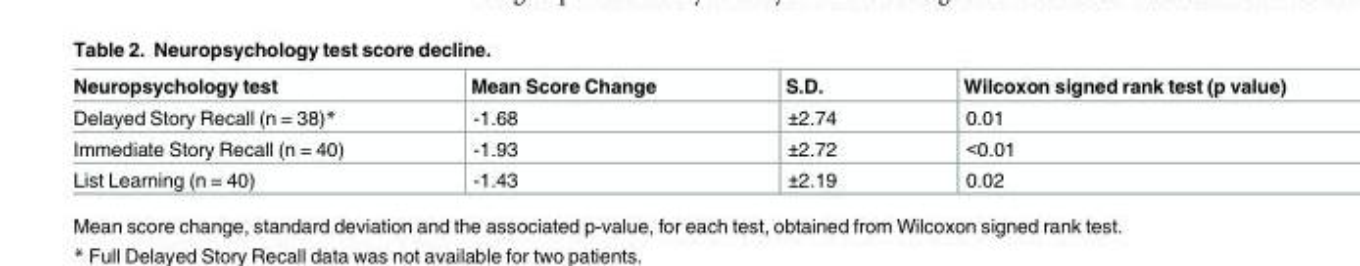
<table><thead><tr><td>Neuropsychology test</td><td>Mean Score Change</td><td>S.D.</td><td>Wilcoxon signed rank test (p value)</td></tr></thead><tbody><tr><td>Delayed Story Recall (n = 38)*</td><td>-1.68</td><td>±2.74</td><td>0.01</td></tr><tr><td>Immediate Story Recall (n = 40)</td><td>-1.93</td><td>±2.72</td><td>&lt;0.01</td></tr><tr><td>List Learning (n = 40)</td><td>-1.43</td><td>±2.19</td><td>0.02</td></tr></tbody></table>